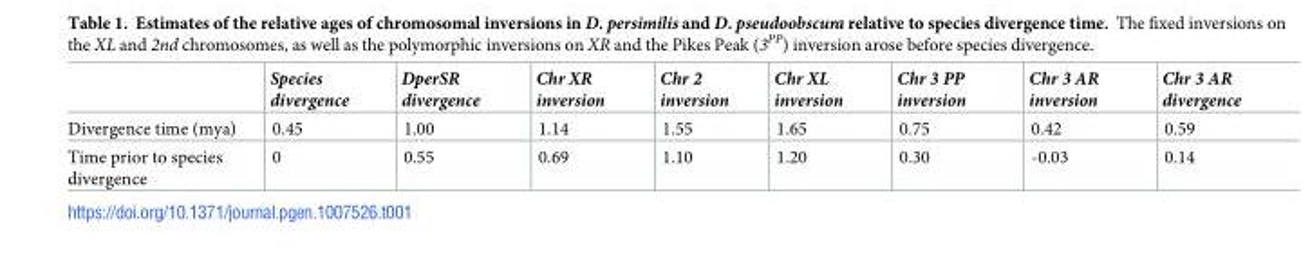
<table><thead><tr><td></td><td>Species divergence</td><td>DperSR divergence</td><td>Chr XR inversion</td><td>Chr 2 inversion</td><td>Chr XL inversion</td><td>Chr 3 PP inversion</td><td>Chr 3 AR inversion</td><td>Chr 3 AR divergence</td></tr></thead><tbody><tr><td>Divergence time (mya)</td><td>0.45</td><td>1.00</td><td>1.14</td><td>1.55</td><td>1.65</td><td>0.75</td><td>0.42</td><td>0.59</td></tr><tr><td>Time prior to species divergence</td><td>0</td><td>0.55</td><td>0.69</td><td>1.10</td><td>1.20</td><td>0.30</td><td>-0.03</td><td>0.14</td></tr></tbody></table>